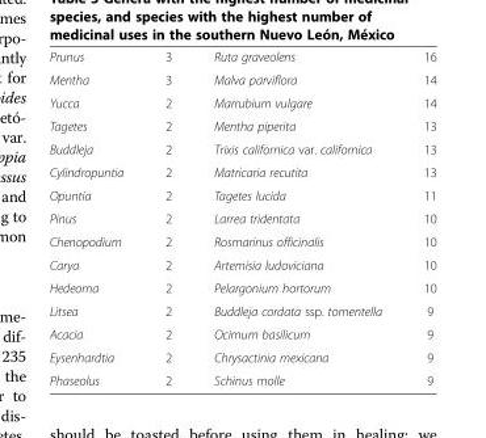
<table><tbody><tr><td>Prunus</td><td>3</td><td>Ruta graveolens</td><td>16</td></tr><tr><td>Mentha</td><td>3</td><td>Malva parviflora</td><td>14</td></tr><tr><td>Yucca</td><td>2</td><td>Marrubium vulgare</td><td>14</td></tr><tr><td>Tagetes</td><td>2</td><td>Mentha piperita</td><td>13</td></tr><tr><td>Buddleja</td><td>2</td><td>Trixis californica var. californica</td><td>13</td></tr><tr><td>Cylindropuntia</td><td>2</td><td>Matricaria recutita</td><td>13</td></tr><tr><td>Opuntia</td><td>2</td><td>Tagetes lucida</td><td>11</td></tr><tr><td>Pinus</td><td>2</td><td>Larrea tridentata</td><td>10</td></tr><tr><td>Chenopodium</td><td>2</td><td>Rosmarinus officinalis</td><td>10</td></tr><tr><td>Carya</td><td>2</td><td>Artemisia ludoviciana</td><td>10</td></tr><tr><td>Hedeoma</td><td>2</td><td>Pelargonium hortorum</td><td>10</td></tr><tr><td>Litsea</td><td>2</td><td>Buddleja cordata ssp. tomentella</td><td>9</td></tr><tr><td>Acacia</td><td>2</td><td>Ocimum basilicum</td><td>9</td></tr><tr><td>Eysenhardtia</td><td>2</td><td>Chrysactinia mexicana</td><td>9</td></tr><tr><td>Phaseolus</td><td>2</td><td>Schinus molle</td><td>9</td></tr></tbody></table>